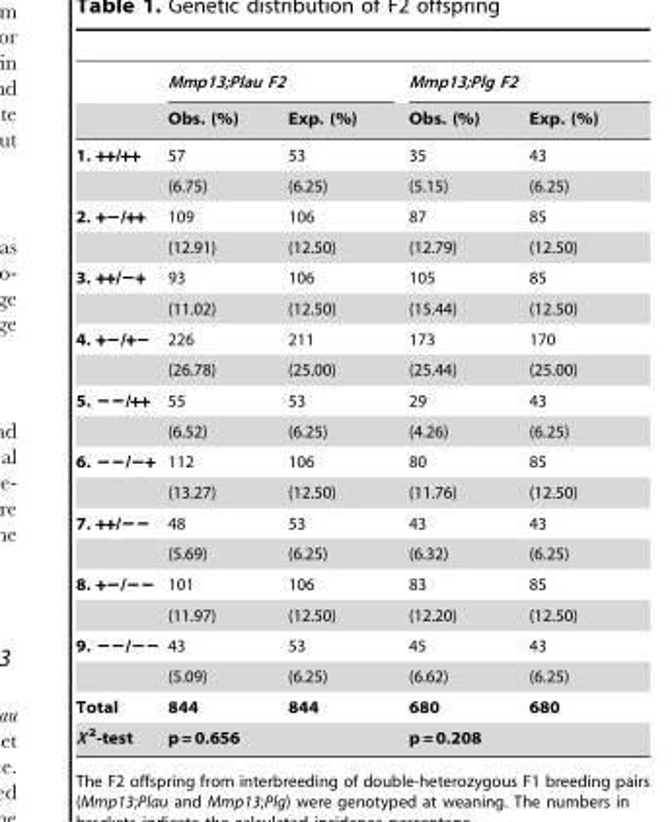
<table><thead><tr><td rowspan="2"></td><td colspan="2">Mmp13;Plau F2</td><td colspan="2">Mmp13;Plg F2</td></tr><tr><td>Obs. (%)</td><td>Exp. (%)</td><td>Obs. (%)</td><td>Exp. (%)</td></tr></thead><tbody><tr><td rowspan="2">1. ++/++</td><td>57</td><td>53</td><td>35</td><td>43</td></tr><tr><td>(6.75)</td><td>(6.25)</td><td>(5.15)</td><td>(6.25)</td></tr><tr><td rowspan="2">2. +−/++</td><td>109</td><td>106</td><td>87</td><td>85</td></tr><tr><td>(12.91)</td><td>(12.50)</td><td>(12.79)</td><td>(12.50)</td></tr><tr><td rowspan="2">3. ++/−+</td><td>93</td><td>106</td><td>105</td><td>85</td></tr><tr><td>(11.02)</td><td>(12.50)</td><td>(15.44)</td><td>(12.50)</td></tr><tr><td rowspan="2">4. +−/+−</td><td>226</td><td>211</td><td>173</td><td>170</td></tr><tr><td>(26.78)</td><td>(25.00)</td><td>(25.44)</td><td>(25.00)</td></tr><tr><td rowspan="2">5. −−/++</td><td>55</td><td>53</td><td>29</td><td>43</td></tr><tr><td>(6.52)</td><td>(6.25)</td><td>(4.26)</td><td>(6.25)</td></tr><tr><td rowspan="2">6. −−/−+</td><td>112</td><td>106</td><td>80</td><td>85</td></tr><tr><td>(13.27)</td><td>(12.50)</td><td>(11.76)</td><td>(12.50)</td></tr><tr><td rowspan="2">7. ++/−−</td><td>48</td><td>53</td><td>43</td><td>43</td></tr><tr><td>(5.69)</td><td>(6.25)</td><td>(6.32)</td><td>(6.25)</td></tr><tr><td rowspan="2">8. +−/−−</td><td>101</td><td>106</td><td>83</td><td>85</td></tr><tr><td>(11.97)</td><td>(12.50)</td><td>(12.20)</td><td>(12.50)</td></tr><tr><td rowspan="2">9. −−/−−</td><td>43</td><td>53</td><td>45</td><td>43</td></tr><tr><td>(5.09)</td><td>(6.25)</td><td>(6.62)</td><td>(6.25)</td></tr><tr><td>Total</td><td>844</td><td>844</td><td>680</td><td>680</td></tr><tr><td>X <sup>2</sup>-test</td><td colspan="2">p = 0.656</td><td colspan="2">p = 0.208</td></tr></tbody></table>